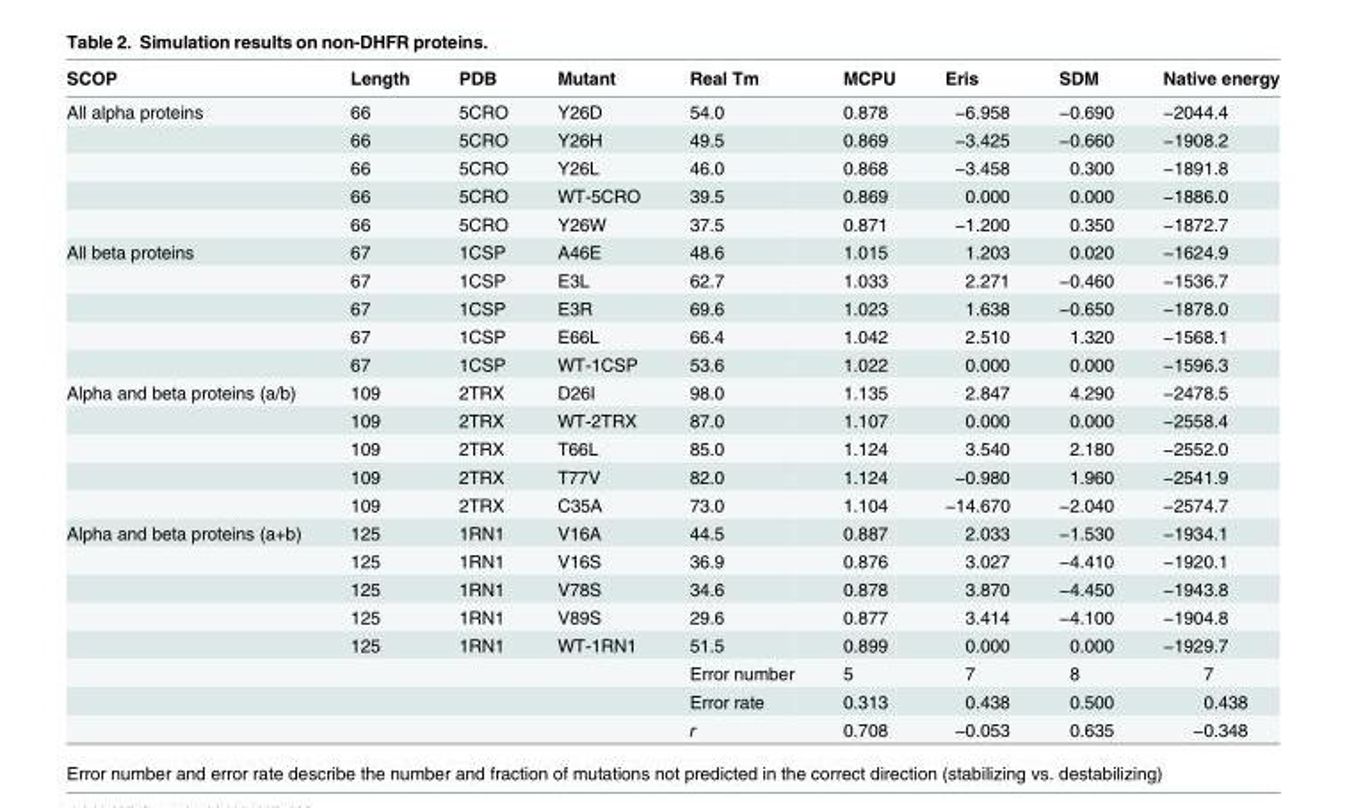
<table><thead><tr><td>SCOP</td><td>Length</td><td>PDB</td><td>Mutant</td><td>Real Tm</td><td>MCPU</td><td>Eris</td><td>SDM</td><td>Native energy</td></tr></thead><tbody><tr><td rowspan="5">All alpha proteins</td><td>66</td><td>5CRO</td><td>Y26D</td><td>54.0</td><td>0.878</td><td>−6.958</td><td>−0.690</td><td>−2044.4</td></tr><tr><td>66</td><td>5CRO</td><td>Y26H</td><td>49.5</td><td>0.869</td><td>−3.425</td><td>−0.660</td><td>−1908.2</td></tr><tr><td>66</td><td>5CRO</td><td>Y26L</td><td>46.0</td><td>0.868</td><td>−3.458</td><td>0.300</td><td>−1891.8</td></tr><tr><td>66</td><td>5CRO</td><td>WT-5CRO</td><td>39.5</td><td>0.869</td><td>0.000</td><td>0.000</td><td>−1886.0</td></tr><tr><td>66</td><td>5CRO</td><td>Y26W</td><td>37.5</td><td>0.871</td><td>−1.200</td><td>0.350</td><td>−1872.7</td></tr><tr><td rowspan="5">All beta proteins</td><td>67</td><td>1CSP</td><td>A46E</td><td>48.6</td><td>1.015</td><td>1.203</td><td>0.020</td><td>−1624.9</td></tr><tr><td>67</td><td>1CSP</td><td>E3L</td><td>62.7</td><td>1.033</td><td>2.271</td><td>−0.460</td><td>−1536.7</td></tr><tr><td>67</td><td>1CSP</td><td>E3R</td><td>69.6</td><td>1.023</td><td>1.638</td><td>−0.650</td><td>−1878.0</td></tr><tr><td>67</td><td>1CSP</td><td>E66L</td><td>66.4</td><td>1.042</td><td>2.510</td><td>1.320</td><td>−1568.1</td></tr><tr><td>67</td><td>1CSP</td><td>WT-1CSP</td><td>53.6</td><td>1.022</td><td>0.000</td><td>0.000</td><td>−1596.3</td></tr><tr><td rowspan="5">Alpha and beta proteins (a/b)</td><td>109</td><td>2TRX</td><td>D26I</td><td>98.0</td><td>1.135</td><td>2.847</td><td>4.290</td><td>−2478.5</td></tr><tr><td>109</td><td>2TRX</td><td>WT-2TRX</td><td>87.0</td><td>1.107</td><td>0.000</td><td>0.000</td><td>−2558.4</td></tr><tr><td>109</td><td>2TRX</td><td>T66L</td><td>85.0</td><td>1.124</td><td>3.540</td><td>2.180</td><td>−2552.0</td></tr><tr><td>109</td><td>2TRX</td><td>T77V</td><td>82.0</td><td>1.124</td><td>−0.980</td><td>1.960</td><td>−2541.9</td></tr><tr><td>109</td><td>2TRX</td><td>C35A</td><td>73.0</td><td>1.104</td><td>−14.670</td><td>−2.040</td><td>−2574.7</td></tr><tr><td rowspan="8">Alpha and beta proteins (a+b)</td><td>125</td><td>1RN1</td><td>V16A</td><td>44.5</td><td>0.887</td><td>2.033</td><td>−1.530</td><td>−1934.1</td></tr><tr><td>125</td><td>1RN1</td><td>V16S</td><td>36.9</td><td>0.876</td><td>3.027</td><td>−4.410</td><td>−1920.1</td></tr><tr><td>125</td><td>1RN1</td><td>V78S</td><td>34.6</td><td>0.878</td><td>3.870</td><td>−4.450</td><td>−1943.8</td></tr><tr><td>125</td><td>1RN1</td><td>V89S</td><td>29.6</td><td>0.877</td><td>3.414</td><td>−4.100</td><td>−1904.8</td></tr><tr><td>125</td><td>1RN1</td><td>WT-1RN1</td><td>51.5</td><td>0.899</td><td>0.000</td><td>0.000</td><td>−1929.7</td></tr><tr><td></td><td></td><td></td><td>Error number</td><td>5</td><td>7</td><td>8</td><td>7</td></tr><tr><td></td><td></td><td></td><td>Error rate</td><td>0.313</td><td>0.438</td><td>0.500</td><td>0.438</td></tr><tr><td></td><td></td><td></td><td>r</td><td>0.708</td><td>−0.053</td><td>0.635</td><td>−0.348</td></tr></tbody></table>